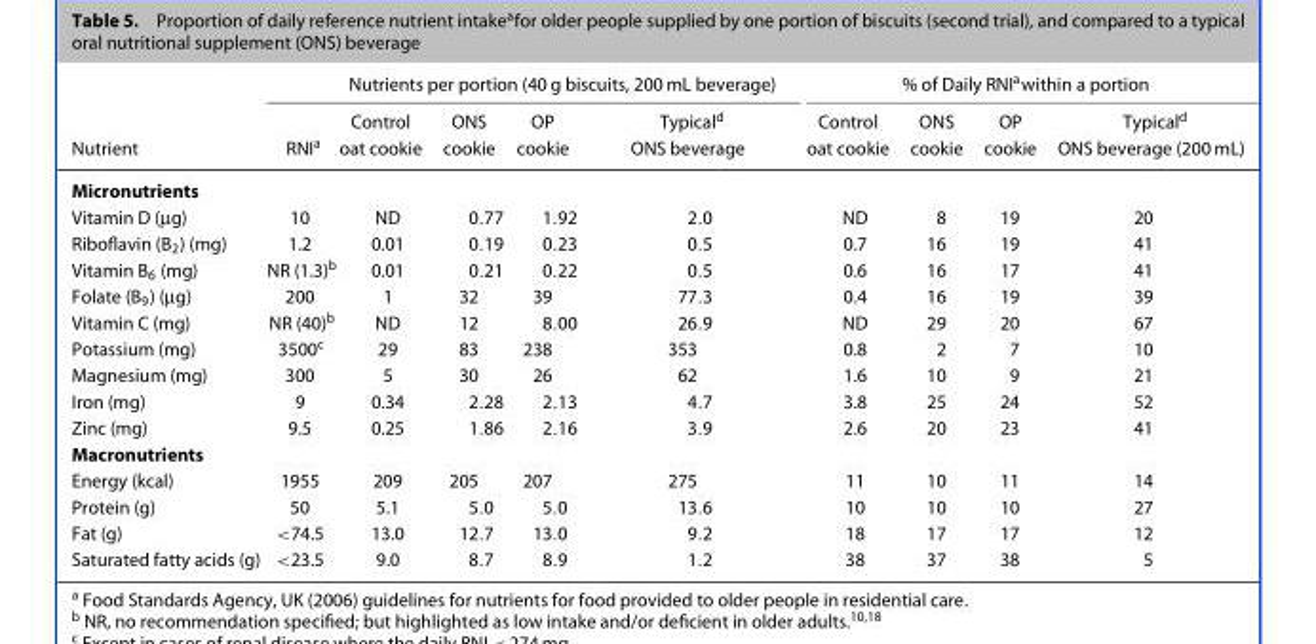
<table><thead><tr><td rowspan="2">Nutrient</td><td colspan="5">Nutrients per portion (40 g biscuits, 200 mL beverage)</td><td colspan="4">% of Daily RNI<sup>a</sup>within a portion</td></tr><tr><td>RNI<sup>a</sup></td><td>Control oat cookie</td><td>ONS cookie</td><td>OP cookie</td><td>Typical<sup>d</sup> ONS beverage</td><td>Control oat cookie</td><td>ONS cookie</td><td>OP cookie</td><td>Typical<sup>d</sup> ONS beverage (200 mL)</td></tr></thead><tbody><tr><td colspan="10">Micronutrients</td></tr><tr><td>Vitamin D (μg)</td><td>10</td><td>ND</td><td>0.77</td><td>1.92</td><td>2.0</td><td>ND</td><td>8</td><td>19</td><td>20</td></tr><tr><td>Riboflavin (B<sub>2</sub>) (mg)</td><td>1.2</td><td>0.01</td><td>0.19</td><td>0.23</td><td>0.5</td><td>0.7</td><td>16</td><td>19</td><td>41</td></tr><tr><td>Vitamin B<sub>6</sub> (mg)</td><td>NR (1.3)<sup>b</sup></td><td>0.01</td><td>0.21</td><td>0.22</td><td>0.5</td><td>0.6</td><td>16</td><td>17</td><td>41</td></tr><tr><td>Folate (B<sub>9</sub>) (μg)</td><td>200</td><td>1</td><td>32</td><td>39</td><td>77.3</td><td>0.4</td><td>16</td><td>19</td><td>39</td></tr><tr><td>Vitamin C (mg)</td><td>NR (40)<sup>b</sup></td><td>ND</td><td>12</td><td>8.00</td><td>26.9</td><td>ND</td><td>29</td><td>20</td><td>67</td></tr><tr><td>Potassium (mg)</td><td>3500<sup>c</sup></td><td>29</td><td>83</td><td>238</td><td>353</td><td>0.8</td><td>2</td><td>7</td><td>10</td></tr><tr><td>Magnesium (mg)</td><td>300</td><td>5</td><td>30</td><td>26</td><td>62</td><td>1.6</td><td>10</td><td>9</td><td>21</td></tr><tr><td>Iron (mg)</td><td>9</td><td>0.34</td><td>2.28</td><td>2.13</td><td>4.7</td><td>3.8</td><td>25</td><td>24</td><td>52</td></tr><tr><td>Zinc (mg)</td><td>9.5</td><td>0.25</td><td>1.86</td><td>2.16</td><td>3.9</td><td>2.6</td><td>20</td><td>23</td><td>41</td></tr><tr><td colspan="10">Macronutrients</td></tr><tr><td>Energy (kcal)</td><td>1955</td><td>209</td><td>205</td><td>207</td><td>275</td><td>11</td><td>10</td><td>11</td><td>14</td></tr><tr><td>Protein (g)</td><td>50</td><td>5.1</td><td>5.0</td><td>5.0</td><td>13.6</td><td>10</td><td>10</td><td>10</td><td>27</td></tr><tr><td>Fat (g)</td><td>&lt;74.5</td><td>13.0</td><td>12.7</td><td>13.0</td><td>9.2</td><td>18</td><td>17</td><td>17</td><td>12</td></tr><tr><td>Saturated fatty acids (g)</td><td>&lt;23.5</td><td>9.0</td><td>8.7</td><td>8.9</td><td>1.2</td><td>38</td><td>37</td><td>38</td><td>5</td></tr></tbody></table>